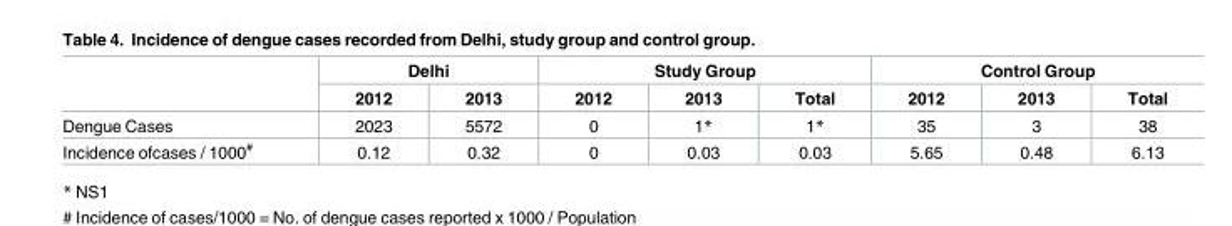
<table><thead><tr><td rowspan="2"></td><td colspan="2">Delhi</td><td colspan="3">Study Group</td><td colspan="3">Control Group</td></tr><tr><td>2012</td><td>2013</td><td>2012</td><td>2013</td><td>Total</td><td>2012</td><td>2013</td><td>Total</td></tr></thead><tbody><tr><td>Dengue Cases</td><td>2023</td><td>5572</td><td>0</td><td>1*</td><td>1*</td><td>35</td><td>3</td><td>38</td></tr><tr><td>Incidence ofcases / 1000<sup>#</sup></td><td>0.12</td><td>0.32</td><td>0</td><td>0.03</td><td>0.03</td><td>5.65</td><td>0.48</td><td>6.13</td></tr></tbody></table>